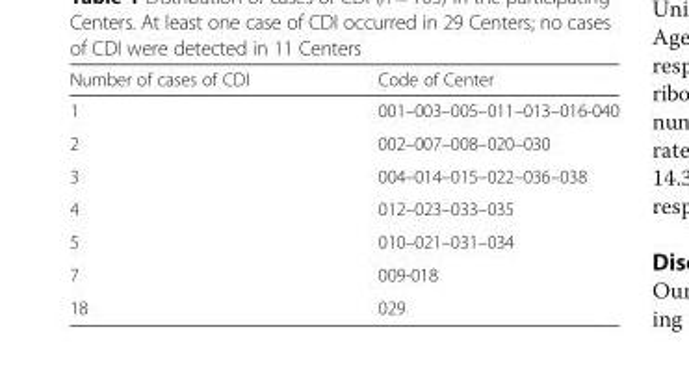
<table><thead><tr><td>Number of cases of CDI</td><td>Code of Center</td></tr></thead><tbody><tr><td>1</td><td>001–003–005–011–013–016-040</td></tr><tr><td>2</td><td>002–007–008–020–030</td></tr><tr><td>3</td><td>004–014–015–022–036–038</td></tr><tr><td>4</td><td>012–023–033–035</td></tr><tr><td>5</td><td>010–021–031–034</td></tr><tr><td>7</td><td>009-018</td></tr><tr><td>18</td><td>029</td></tr></tbody></table>